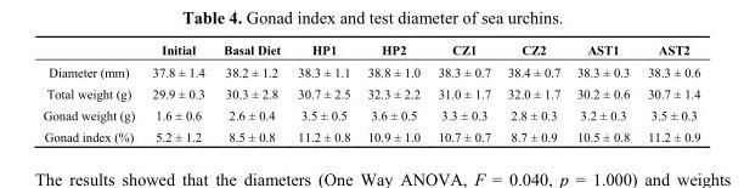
<table><thead><tr><td></td><td>Initial</td><td>Basal Diet</td><td>HP1</td><td>HP2</td><td>CZ1</td><td>CZ2</td><td>AST1</td><td>AST2</td></tr></thead><tbody><tr><td>Diameter (mm)</td><td>37.8 ± 1.4</td><td>38.2 ± 1.2</td><td>38.3 ± 1.1</td><td>38.8 ± 1.0</td><td>38.3 ± 0.7</td><td>38.4 ± 0.7</td><td>38.3 ± 0.3</td><td>38.3 ± 0.6</td></tr><tr><td>Total weight (g)</td><td>29.9 ± 0.3</td><td>30.3 ± 2.8</td><td>30.7 ± 2.5</td><td>32.3 ± 2.2</td><td>31.0 ± 1.7</td><td>32.0 ± 1.7</td><td>30.2 ± 0.6</td><td>30.7 ± 1.4</td></tr><tr><td>Gonad weight (g)</td><td>1.6 ± 0.6</td><td>2.6 ± 0.4</td><td>3.5 ± 0.5</td><td>3.6 ± 0.5</td><td>3.3 ± 0.3</td><td>2.8 ± 0.3</td><td>3.2 ± 0.3</td><td>3.5 ± 0.3</td></tr><tr><td>Gonad index (%)</td><td>5.2 ± 1.2</td><td>8.5 ± 0.8</td><td>11.2 ± 0.8</td><td>10.9 ± 1.0</td><td>10.7 ± 0.7</td><td>8.7 ± 0.9</td><td>10.5 ± 0.8</td><td>11.2 ± 0.9</td></tr></tbody></table>